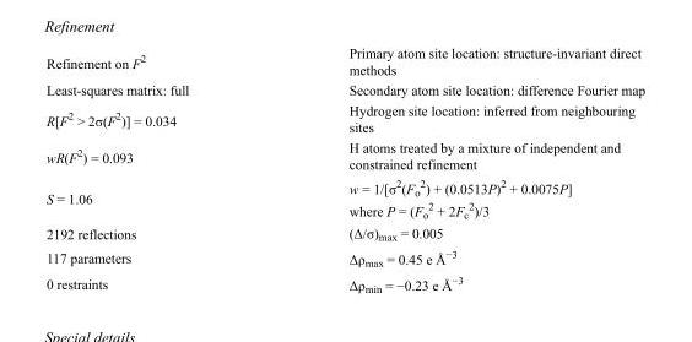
<table><tbody><tr><td>Refinement on F<sup>2</sup></td><td>Primary atom site location: structure-invariant direct methods</td></tr><tr><td>Least-squares matrix: full</td><td>Secondary atom site location: difference Fourier map</td></tr><tr><td>R[F<sup>2</sup> &gt; 2σ(F<sup>2</sup>)] = 0.034</td><td>Hydrogen site location: inferred from neighbouring sites</td></tr><tr><td>wR(F<sup>2</sup>) = 0.093</td><td>H atoms treated by a mixture of independent and constrained refinement</td></tr><tr><td>S = 1.06</td><td>w = 1/[σ<sup>2</sup>(F<sub>o</sub> <sup>2</sup>) + (0.0513P)<sup>2</sup> + 0.0075P] where P = (F<sub>o</sub> <sup>2</sup> + 2F<sub>c</sub> <sup>2</sup>)/3</td></tr><tr><td>2192 reflections</td><td>(Δ/σ)<sub>max</sub> = 0.005</td></tr><tr><td>117 parameters</td><td>Δρ<sub>max</sub> = 0.45 e Å<sup>−3</sup></td></tr><tr><td>0 restraints</td><td>Δρ<sub>min</sub> = −0.23 e Å<sup>−3</sup></td></tr></tbody></table>